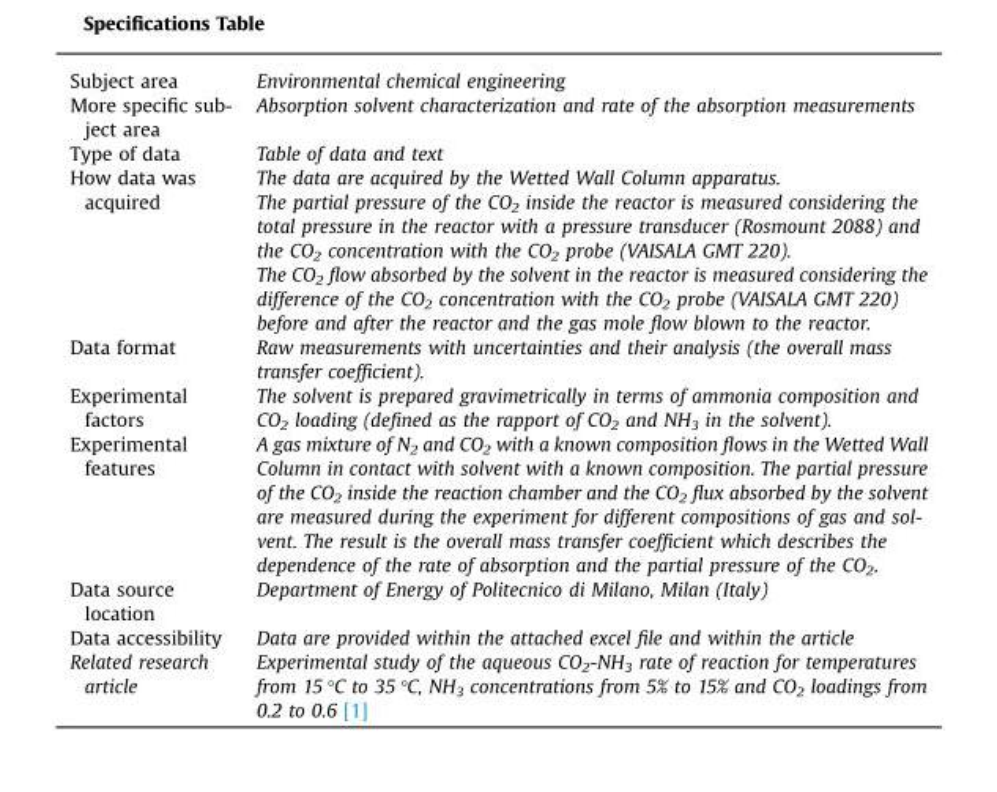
<table><tbody><tr><td>Subject area</td><td>Environmental chemical engineering</td></tr><tr><td>More specific sub- ject area</td><td>Absorption solvent characterization and rate of the absorption measurements</td></tr><tr><td>Type of data</td><td>Table of data and text</td></tr><tr><td rowspan="3">How data was acquired</td><td>The data are acquired by the Wetted Wall Column apparatus.</td></tr><tr><td>The partial pressure of the CO<sub>2</sub> inside the reactor is measured considering the total pressure in the reactor with a pressure transducer (Rosmount 2088) and the CO<sub>2</sub> concentration with the CO<sub>2</sub> probe (VAISALA GMT 220).</td></tr><tr><td>The CO<sub>2</sub> flow absorbed by the solvent in the reactor is measured considering the difference of the CO<sub>2</sub> concentration with the CO<sub>2</sub> probe (VAISALA GMT 220) before and after the reactor and the gas mole flow blown to the reactor.</td></tr><tr><td>Data format</td><td>Raw measurements with uncertainties and their analysis (the overall mass transfer coefficient).</td></tr><tr><td>Experimental factors</td><td>The solvent is prepared gravimetrically in terms of ammonia composition and CO<sub>2</sub> loading (defined as the rapport of CO<sub>2</sub> and NH<sub>3</sub> in the solvent).</td></tr><tr><td>Experimental features</td><td>A gas mixture of N2 and CO2 with a known composition flows in the Wetted Wall Column in contact with solvent with a known composition. The partial pressure of the CO2 inside the reaction chamber and the CO2 flux absorbed by the solvent are measured during the experiment for different compositions of gas and sol- vent. The result is the overall mass transfer coefficient which describes the dependence of the rate of absorption and the partial pressure of the CO2.</td></tr><tr><td>Data source location</td><td>Department of Energy of Politecnico di Milano, Milan (Italy)</td></tr><tr><td>Data accessibility</td><td>Data are provided within the attached excel file and within the article</td></tr><tr><td>Related research article</td><td>Experimental study of the aqueous CO<sub>2</sub>-NH<sub>3</sub> rate of reaction for temperatures from 15 °C to 35 °C, NH<sub>3</sub> concentrations from 5% to 15% and CO<sub>2</sub> loadings from 0.2 to 0.6 [1]</td></tr></tbody></table>